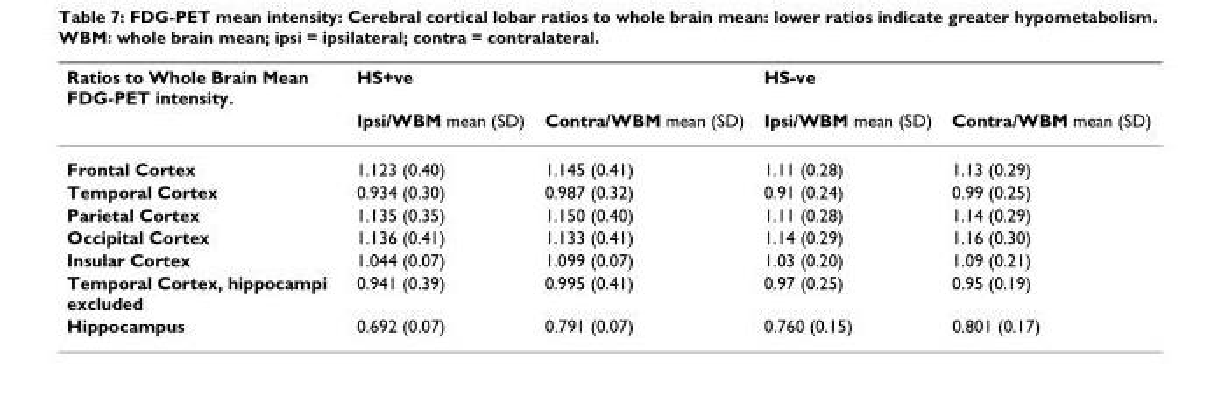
<table><thead><tr><td rowspan="2">Ratios to Whole Brain Mean FDG-PET intensity.</td><td rowspan="2">HS+ve Ipsi/WBM mean (SD)</td><td rowspan="2">Contra/WBM mean (SD)</td><td rowspan="2">HS-ve Ipsi/WBM mean (SD)</td><td rowspan="2">Contra/WBM mean (SD)</td></tr><tr></tr></thead><tbody><tr><td>Frontal Cortex</td><td>1.123 (0.40)</td><td>1.145 (0.41)</td><td>1.11 (0.28)</td><td>1.13 (0.29)</td></tr><tr><td>Temporal Cortex</td><td>0.934 (0.30)</td><td>0.987 (0.32)</td><td>0.91 (0.24)</td><td>0.99 (0.25)</td></tr><tr><td>Parietal Cortex</td><td>1.135 (0.35)</td><td>1.150 (0.40)</td><td>1.11 (0.28)</td><td>1.14 (0.29)</td></tr><tr><td>Occipital Cortex</td><td>1.136 (0.41)</td><td>1.133 (0.41)</td><td>1.14 (0.29)</td><td>1.16 (0.30)</td></tr><tr><td>Insular Cortex</td><td>1.044 (0.07)</td><td>1.099 (0.07)</td><td>1.03 (0.20)</td><td>1.09 (0.21)</td></tr><tr><td>Temporal Cortex, hippocampi excluded</td><td>0.941 (0.39)</td><td>0.995 (0.41)</td><td>0.97 (0.25)</td><td>0.95 (0.19)</td></tr><tr><td>Hippocampus</td><td>0.692 (0.07)</td><td>0.791 (0.07)</td><td>0.760 (0.15)</td><td>0.801 (0.17)</td></tr></tbody></table>